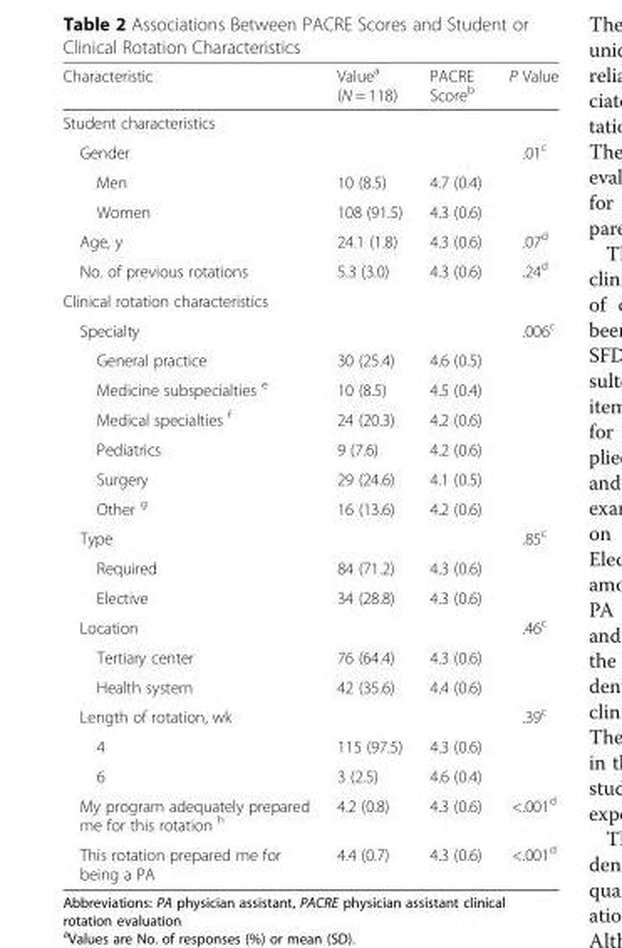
<table><thead><tr><td>Characteristic</td><td>Value<sup>a</sup> (N = 118)</td><td>PACRE Score<sup>b</sup></td><td>P Value</td></tr></thead><tbody><tr><td colspan="4">Student characteristics</td></tr><tr><td>Gender</td><td></td><td></td><td>.01<sup>c</sup></td></tr><tr><td>Men</td><td>10 (8.5)</td><td>4.7 (0.4)</td><td></td></tr><tr><td>Women</td><td>108 (91.5)</td><td>4.3 (0.6)</td><td></td></tr><tr><td>Age, y</td><td>24.1 (1.8)</td><td>4.3 (0.6)</td><td>.07<sup>d</sup></td></tr><tr><td>No. of previous rotations</td><td>5.3 (3.0)</td><td>4.3 (0.6)</td><td>.24<sup>d</sup></td></tr><tr><td colspan="4">Clinical rotation characteristics</td></tr><tr><td>Specialty</td><td></td><td></td><td>.006<sup>c</sup></td></tr><tr><td>General practice</td><td>30 (25.4)</td><td>4.6 (0.5)</td><td></td></tr><tr><td>Medicine subspecialties <sup>e</sup></td><td>10 (8.5)</td><td>4.5 (0.4)</td><td></td></tr><tr><td>Medical specialties <sup>f</sup></td><td>24 (20.3)</td><td>4.2 (0.6)</td><td></td></tr><tr><td>Pediatrics</td><td>9 (7.6)</td><td>4.2 (0.6)</td><td></td></tr><tr><td>Surgery</td><td>29 (24.6)</td><td>4.1 (0.5)</td><td></td></tr><tr><td>Other <sup>g</sup></td><td>16 (13.6)</td><td>4.2 (0.6)</td><td></td></tr><tr><td>Type</td><td></td><td></td><td>.85<sup>c</sup></td></tr><tr><td>Required</td><td>84 (71.2)</td><td>4.3 (0.6)</td><td></td></tr><tr><td>Elective</td><td>34 (28.8)</td><td>4.3 (0.6)</td><td></td></tr><tr><td>Location</td><td></td><td></td><td>.46<sup>c</sup></td></tr><tr><td>Tertiary center</td><td>76 (64.4)</td><td>4.3 (0.6)</td><td></td></tr><tr><td>Health system</td><td>42 (35.6)</td><td>4.4 (0.6)</td><td></td></tr><tr><td>Length of rotation, wk</td><td></td><td></td><td>.39<sup>c</sup></td></tr><tr><td>4</td><td>115 (97.5)</td><td>4.3 (0.6)</td><td></td></tr><tr><td>6</td><td>3 (2.5)</td><td>4.6 (0.4)</td><td></td></tr><tr><td>My program adequately prepared me for this rotation <sup>h</sup></td><td>4.2 (0.8)</td><td>4.3 (0.6)</td><td>&lt;.001<sup>d</sup></td></tr><tr><td>This rotation prepared me for being a PA</td><td>4.4 (0.7)</td><td>4.3 (0.6)</td><td>&lt;.001<sup>d</sup></td></tr></tbody></table>